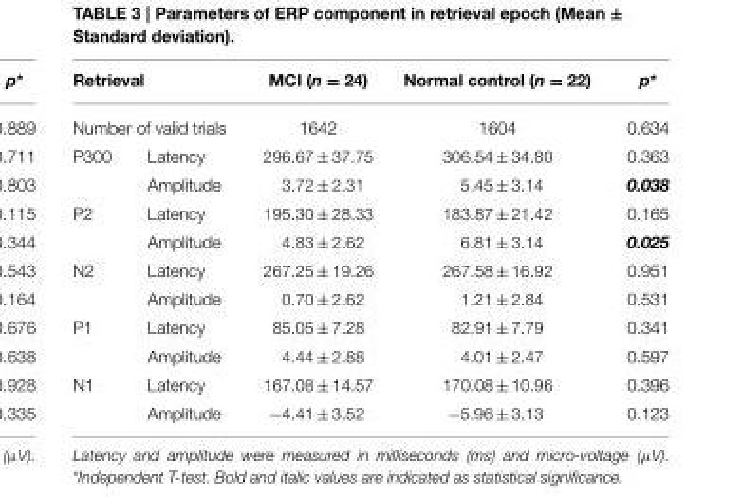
<table><thead><tr><td rowspan="2" colspan="2">Retrieval Number of valid trials</td><td rowspan="3">MCI (n = 24) 1642 296.67 ± 37.75</td><td rowspan="3">Normal control (n = 22) 1604 306.54 ± 34.80</td><td rowspan="3">p* 0.634 0.363</td></tr><tr></tr><tr><td>P300</td><td>Latency</td></tr></thead><tbody><tr><td></td><td>Amplitude</td><td>3.72 ± 2.31</td><td>5.45 ± 3.14</td><td>0.038</td></tr><tr><td rowspan="2">P2</td><td>Latency</td><td>195.30 ± 28.33</td><td>183.87 ± 21.42</td><td>0.165</td></tr><tr><td>Amplitude</td><td>4.83 ± 2.62</td><td>6.81 ± 3.14</td><td>0.025</td></tr><tr><td rowspan="2">N2</td><td>Latency</td><td>267.25 ± 19.26</td><td>267.58 ± 16.92</td><td>0.951</td></tr><tr><td>Amplitude</td><td>0.70 ± 2.62</td><td>1.21 ± 2.84</td><td>0.531</td></tr><tr><td rowspan="2">P1</td><td>Latency</td><td>85.05 ± 7.28</td><td>82.91 ± 7.79</td><td>0.341</td></tr><tr><td>Amplitude</td><td>4.44 ± 2.88</td><td>4.01 ± 2.47</td><td>0.597</td></tr><tr><td rowspan="2">N1</td><td>Latency</td><td>167.08 ± 14.57</td><td>170.08 ± 10.96</td><td>0.396</td></tr><tr><td>Amplitude</td><td>−4.41 ± 3.52</td><td>−5.96 ± 3.13</td><td>0.123</td></tr></tbody></table>